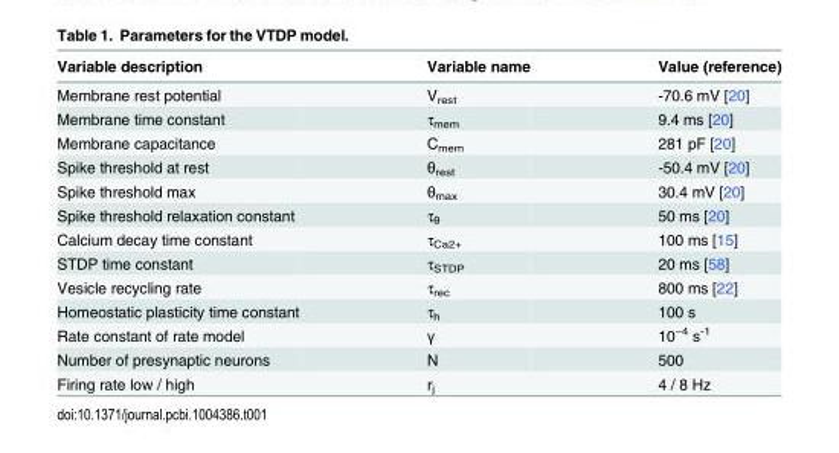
<table><thead><tr><td>Variable description</td><td>Variable name</td><td>Value (reference)</td></tr></thead><tbody><tr><td>Membrane rest potential</td><td>V<sub>rest</sub></td><td>-70.6 mV [20]</td></tr><tr><td>Membrane time constant</td><td>τ<sub>mem</sub></td><td>9.4 ms [20]</td></tr><tr><td>Membrane capacitance</td><td>C<sub>mem</sub></td><td>281 pF [20]</td></tr><tr><td>Spike threshold at rest</td><td>θ<sub>rest</sub></td><td>-50.4 mV [20]</td></tr><tr><td>Spike threshold max</td><td>θ<sub>max</sub></td><td>30.4 mV [20]</td></tr><tr><td>Spike threshold relaxation constant</td><td>τ<sub>θ</sub></td><td>50 ms [20]</td></tr><tr><td>Calcium decay time constant</td><td>τ<sub>Ca2+</sub></td><td>100 ms [15]</td></tr><tr><td>STDP time constant</td><td>τ<sub>STDP</sub></td><td>20 ms [58]</td></tr><tr><td>Vesicle recycling rate</td><td>τ<sub>rec</sub></td><td>800 ms [22]</td></tr><tr><td>Homeostatic plasticity time constant</td><td>τ<sub>h</sub></td><td>100 s</td></tr><tr><td>Rate constant of rate model</td><td>γ</td><td>10<sup>−4</sup> s<sup>-1</sup></td></tr><tr><td>Number of presynaptic neurons</td><td>N</td><td>500</td></tr><tr><td>Firing rate low / high</td><td>r<sub>j</sub></td><td>4 / 8 Hz</td></tr></tbody></table>